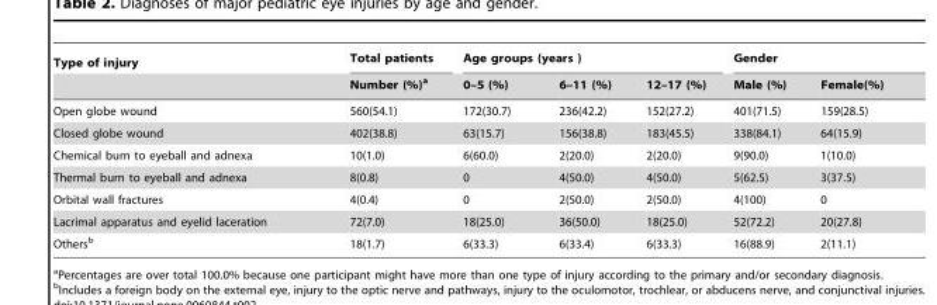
<table><thead><tr><td rowspan="2">Type of injury</td><td rowspan="2">Total patients Number (%)<sup>a</sup></td><td colspan="3">Age groups (years )</td><td colspan="2">Gender</td></tr><tr><td>0–5 (%)</td><td>6–11 (%)</td><td>12–17 (%)</td><td>Male (%)</td><td>Female(%)</td></tr></thead><tbody><tr><td>Open globe wound</td><td>560(54.1)</td><td>172(30.7)</td><td>236(42.2)</td><td>152(27.2)</td><td>401(71.5)</td><td>159(28.5)</td></tr><tr><td>Closed globe wound</td><td>402(38.8)</td><td>63(15.7)</td><td>156(38.8)</td><td>183(45.5)</td><td>338(84.1)</td><td>64(15.9)</td></tr><tr><td>Chemical burn to eyeball and adnexa</td><td>10(1.0)</td><td>6(60.0)</td><td>2(20.0)</td><td>2(20.0)</td><td>9(90.0)</td><td>1(10.0)</td></tr><tr><td>Thermal burn to eyeball and adnexa</td><td>8(0.8)</td><td>0</td><td>4(50.0)</td><td>4(50.0)</td><td>5(62.5)</td><td>3(37.5)</td></tr><tr><td>Orbital wall fractures</td><td>4(0.4)</td><td>0</td><td>2(50.0)</td><td>2(50.0)</td><td>4(100)</td><td>0</td></tr><tr><td>Lacrimal apparatus and eyelid laceration</td><td>72(7.0)</td><td>18(25.0)</td><td>36(50.0)</td><td>18(25.0)</td><td>52(72.2)</td><td>20(27.8)</td></tr><tr><td>Others<sup>b</sup></td><td>18(1.7)</td><td>6(33.3)</td><td>6(33.4)</td><td>6(33.3)</td><td>16(88.9)</td><td>2(11.1)</td></tr></tbody></table>